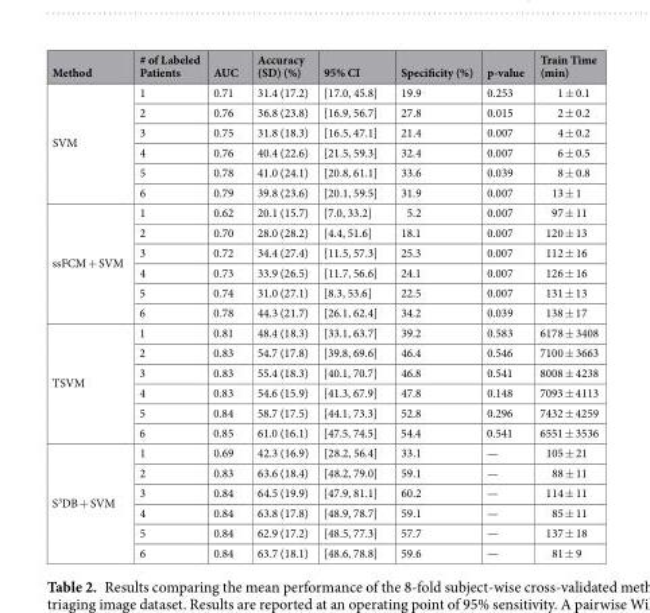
<table><thead><tr><td>Method</td><td># of Labeled Patients</td><td>AUC</td><td>Accuracy (SD) (%)</td><td>95% CI</td><td>Specificity (%)</td><td>p-value</td><td>Train Time (min)</td></tr></thead><tbody><tr><td rowspan="6">SVM</td><td>1</td><td>0.71</td><td>31.4 (17.2)</td><td>[17.0, 45.8]</td><td>19.9</td><td>0.253</td><td>1 ± 0.1</td></tr><tr><td>2</td><td>0.76</td><td>36.8 (23.8)</td><td>[16.9, 56.7]</td><td>27.8</td><td>0.015</td><td>2 ± 0.2</td></tr><tr><td>3</td><td>0.75</td><td>31.8 (18.3)</td><td>[16.5, 47.1]</td><td>21.4</td><td>0.007</td><td>4 ± 0.2</td></tr><tr><td>4</td><td>0.76</td><td>40.4 (22.6)</td><td>[21.5, 59.3]</td><td>32.4</td><td>0.007</td><td>6 ± 0.5</td></tr><tr><td>5</td><td>0.78</td><td>41.0 (24.1)</td><td>[20.8, 61.1]</td><td>33.6</td><td>0.039</td><td>8 ± 0.8</td></tr><tr><td>6</td><td>0.79</td><td>39.8 (23.6)</td><td>[20.1, 59.5]</td><td>31.9</td><td>0.007</td><td>13 ± 1</td></tr><tr><td rowspan="6">ssFCM + SVM</td><td>1</td><td>0.62</td><td>20.1 (15.7)</td><td>[7.0, 33.2]</td><td>5.2</td><td>0.007</td><td>97 ± 11</td></tr><tr><td>2</td><td>0.70</td><td>28.0 (28.2)</td><td>[4.4, 51.6]</td><td>18.1</td><td>0.007</td><td>120 ± 13</td></tr><tr><td>3</td><td>0.72</td><td>34.4 (27.4)</td><td>[11.5, 57.3]</td><td>25.3</td><td>0.007</td><td>112 ± 16</td></tr><tr><td>4</td><td>0.73</td><td>33.9 (26.5)</td><td>[11.7, 56.6]</td><td>24.1</td><td>0.007</td><td>126 ± 16</td></tr><tr><td>5</td><td>0.74</td><td>31.0 (27.1)</td><td>[8.3, 53.6]</td><td>22.5</td><td>0.007</td><td>131 ± 13</td></tr><tr><td>6</td><td>0.78</td><td>44.3 (21.7)</td><td>[26.1, 62.4]</td><td>34.2</td><td>0.039</td><td>138 ± 17</td></tr><tr><td rowspan="6">TSVM</td><td>1</td><td>0.81</td><td>48.4 (18.3)</td><td>[33.1, 63.7]</td><td>39.2</td><td>0.583</td><td>6178 ± 3408</td></tr><tr><td>2</td><td>0.83</td><td>54.7 (17.8)</td><td>[39.8, 69.6]</td><td>46.4</td><td>0.546</td><td>7100 ± 3663</td></tr><tr><td>3</td><td>0.83</td><td>55.4 (18.3)</td><td>[40.1, 70.7]</td><td>46.8</td><td>0.541</td><td>8008 ± 4238</td></tr><tr><td>4</td><td>0.83</td><td>54.6 (15.9)</td><td>[41.3, 67.9]</td><td>47.8</td><td>0.148</td><td>7093 ± 4113</td></tr><tr><td>5</td><td>0.84</td><td>58.7 (17.5)</td><td>[44.1, 73.3]</td><td>52.8</td><td>0.296</td><td>7432 ± 4259</td></tr><tr><td>6</td><td>0.85</td><td>61.0 (16.1)</td><td>[47.5, 74.5]</td><td>54.4</td><td>0.541</td><td>6551 ± 3536</td></tr><tr><td rowspan="6">S<sup>3</sup>DB + SVM</td><td>1</td><td>0.69</td><td>42.3 (16.9)</td><td>[28.2, 56.4]</td><td>33.1</td><td>—</td><td>105 ± 21</td></tr><tr><td>2</td><td>0.83</td><td>63.6 (18.4)</td><td>[48.2, 79.0]</td><td>59.1</td><td>—</td><td>88 ± 11</td></tr><tr><td>3</td><td>0.84</td><td>64.5 (19.9)</td><td>[47.9, 81.1]</td><td>60.2</td><td>—</td><td>114 ± 11</td></tr><tr><td>4</td><td>0.84</td><td>63.8 (17.8)</td><td>[48.9, 78.7]</td><td>59.1</td><td>—</td><td>85 ± 11</td></tr><tr><td>5</td><td>0.84</td><td>62.9 (17.2)</td><td>[48.5, 77.3]</td><td>57.7</td><td>—</td><td>137 ± 18</td></tr><tr><td>6</td><td>0.84</td><td>63.7 (18.1)</td><td>[48.6, 78.8]</td><td>59.6</td><td>—</td><td>81 ± 9</td></tr></tbody></table>